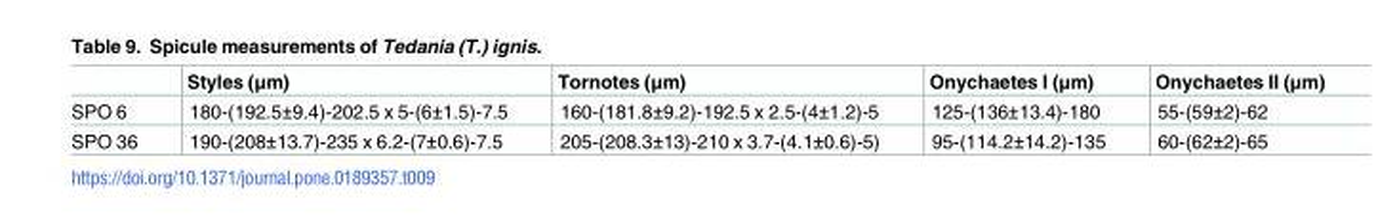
<table><thead><tr><td></td><td>Styles (μm)</td><td>Tornotes (μm)</td><td>Onychaetes I (μm)</td><td>Onychaetes II (μm)</td></tr></thead><tbody><tr><td>SPO 6</td><td>180-(192.5±9.4)-202.5 x 5-(6±1.5)-7.5</td><td>160-(181.8±9.2)-192.5 x 2.5-(4±1.2)-5</td><td>125-(136±13.4)-180</td><td>55-(59±2)-62</td></tr><tr><td>SPO 36</td><td>190-(208±13.7)-235 x 6.2-(7±0.6)-7.5</td><td>205-(208.3±13)-210 x 3.7-(4.1±0.6)-5)</td><td>95-(114.2±14.2)-135</td><td>60-(62±2)-65</td></tr></tbody></table>